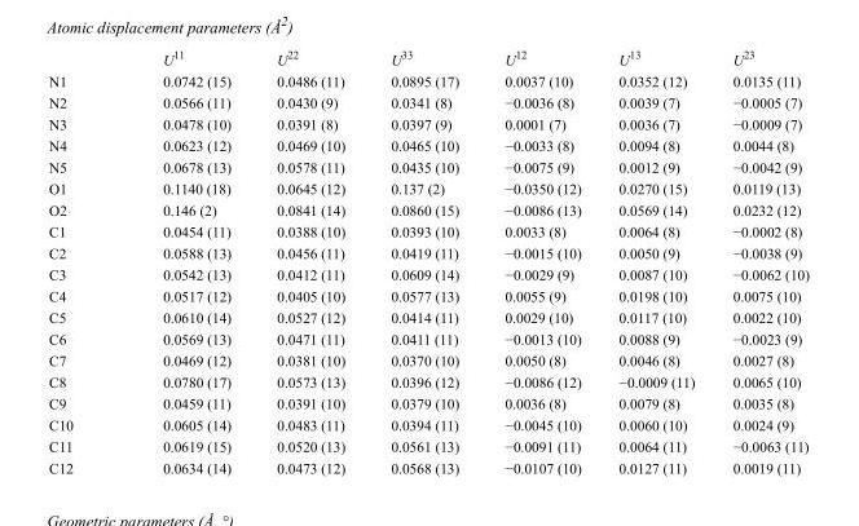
<table><thead><tr><td></td><td>U<sup>11</sup></td><td>U<sup>22</sup></td><td>U<sup>33</sup></td><td>U<sup>12</sup></td><td>U<sup>13</sup></td><td>U<sup>23</sup></td></tr></thead><tbody><tr><td>N1</td><td>0.0742 (15)</td><td>0.0486 (11)</td><td>0.0895 (17)</td><td>0.0037 (10)</td><td>0.0352 (12)</td><td>0.0135 (11)</td></tr><tr><td>N2</td><td>0.0566 (11)</td><td>0.0430 (9)</td><td>0.0341 (8)</td><td>−0.0036 (8)</td><td>0.0039 (7)</td><td>−0.0005 (7)</td></tr><tr><td>N3</td><td>0.0478 (10)</td><td>0.0391 (8)</td><td>0.0397 (9)</td><td>0.0001 (7)</td><td>0.0036 (7)</td><td>−0.0009 (7)</td></tr><tr><td>N4</td><td>0.0623 (12)</td><td>0.0469 (10)</td><td>0.0465 (10)</td><td>−0.0033 (8)</td><td>0.0094 (8)</td><td>0.0044 (8)</td></tr><tr><td>N5</td><td>0.0678 (13)</td><td>0.0578 (11)</td><td>0.0435 (10)</td><td>−0.0075 (9)</td><td>0.0012 (9)</td><td>−0.0042 (9)</td></tr><tr><td>O1</td><td>0.1140 (18)</td><td>0.0645 (12)</td><td>0.137 (2)</td><td>−0.0350 (12)</td><td>0.0270 (15)</td><td>0.0119 (13)</td></tr><tr><td>O2</td><td>0.146 (2)</td><td>0.0841 (14)</td><td>0.0860 (15)</td><td>−0.0086 (13)</td><td>0.0569 (14)</td><td>0.0232 (12)</td></tr><tr><td>C1</td><td>0.0454 (11)</td><td>0.0388 (10)</td><td>0.0393 (10)</td><td>0.0033 (8)</td><td>0.0064 (8)</td><td>−0.0002 (8)</td></tr><tr><td>C2</td><td>0.0588 (13)</td><td>0.0456 (11)</td><td>0.0419 (11)</td><td>−0.0015 (10)</td><td>0.0050 (9)</td><td>−0.0038 (9)</td></tr><tr><td>C3</td><td>0.0542 (13)</td><td>0.0412 (11)</td><td>0.0609 (14)</td><td>−0.0029 (9)</td><td>0.0087 (10)</td><td>−0.0062 (10)</td></tr><tr><td>C4</td><td>0.0517 (12)</td><td>0.0405 (10)</td><td>0.0577 (13)</td><td>0.0055 (9)</td><td>0.0198 (10)</td><td>0.0075 (10)</td></tr><tr><td>C5</td><td>0.0610 (14)</td><td>0.0527 (12)</td><td>0.0414 (11)</td><td>0.0029 (10)</td><td>0.0117 (10)</td><td>0.0022 (10)</td></tr><tr><td>C6</td><td>0.0569 (13)</td><td>0.0471 (11)</td><td>0.0411 (11)</td><td>−0.0013 (10)</td><td>0.0088 (9)</td><td>−0.0023 (9)</td></tr><tr><td>C7</td><td>0.0469 (12)</td><td>0.0381 (10)</td><td>0.0370 (10)</td><td>0.0050 (8)</td><td>0.0046 (8)</td><td>0.0027 (8)</td></tr><tr><td>C8</td><td>0.0780 (17)</td><td>0.0573 (13)</td><td>0.0396 (12)</td><td>−0.0086 (12)</td><td>−0.0009 (11)</td><td>0.0065 (10)</td></tr><tr><td>C9</td><td>0.0459 (11)</td><td>0.0391 (10)</td><td>0.0379 (10)</td><td>0.0036 (8)</td><td>0.0079 (8)</td><td>0.0035 (8)</td></tr><tr><td>C10</td><td>0.0605 (14)</td><td>0.0483 (11)</td><td>0.0394 (11)</td><td>−0.0045 (10)</td><td>0.0060 (10)</td><td>0.0024 (9)</td></tr><tr><td>C11</td><td>0.0619 (15)</td><td>0.0520 (13)</td><td>0.0561 (13)</td><td>−0.0091 (11)</td><td>0.0064 (11)</td><td>−0.0063 (11)</td></tr><tr><td>C12</td><td>0.0634 (14)</td><td>0.0473 (12)</td><td>0.0568 (13)</td><td>−0.0107 (10)</td><td>0.0127 (11)</td><td>0.0019 (11)</td></tr></tbody></table>